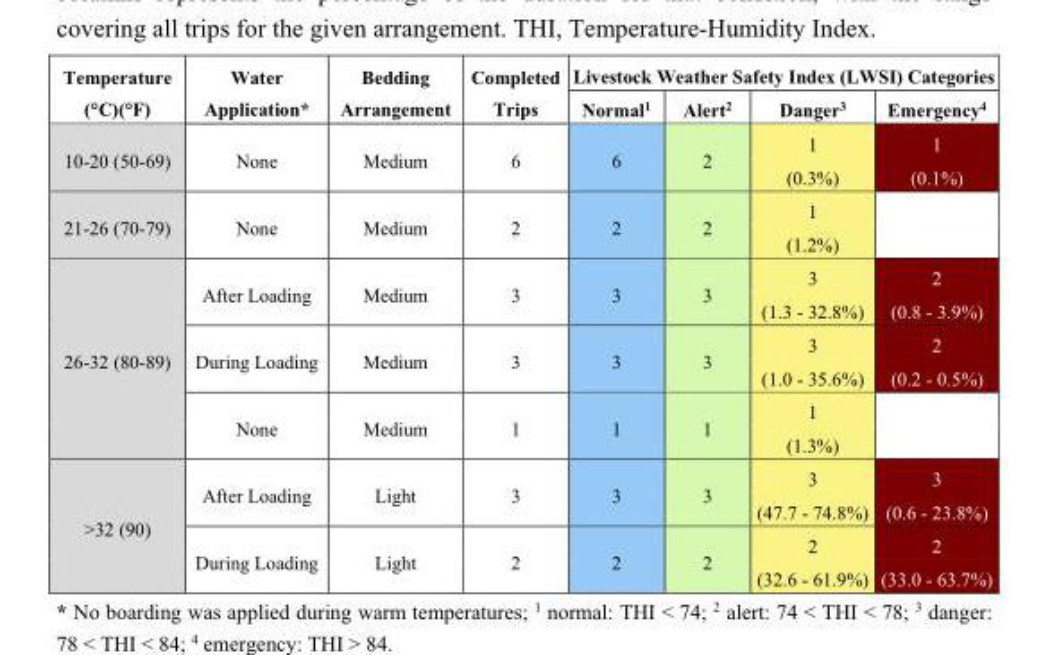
<table><thead><tr><td rowspan="2">Temperature (°C)(°F)</td><td rowspan="2">Water Application*</td><td rowspan="2">Bedding Arrangement</td><td rowspan="2">Completed Trips</td><td colspan="4">Livestock Weather Safety Index (LWSI) Categories</td></tr><tr><td>Normal<sup>1</sup></td><td>Alert<sup>2</sup></td><td>Danger<sup>3</sup></td><td>Emergency<sup>4</sup></td></tr></thead><tbody><tr><td rowspan="2">10-20 (50-69)</td><td rowspan="2">None</td><td rowspan="2">Medium</td><td rowspan="2">6</td><td rowspan="2">6</td><td rowspan="2">2</td><td>1</td><td>1</td></tr><tr><td>(0.3%)</td><td>(0.1%)</td></tr><tr><td rowspan="2">21-26 (70-79)</td><td rowspan="2">None</td><td rowspan="2">Medium</td><td rowspan="2">2</td><td rowspan="2">2</td><td rowspan="2">2</td><td>1</td><td rowspan="2"></td></tr><tr><td>(1.2%)</td></tr><tr><td rowspan="6">26-32 (80-89)</td><td rowspan="2">After Loading</td><td rowspan="2">Medium</td><td rowspan="2">3</td><td rowspan="2">3</td><td rowspan="2">3</td><td>3</td><td>2</td></tr><tr><td>(1.3 - 32.8%)</td><td>(0.8 - 3.9%)</td></tr><tr><td rowspan="2">During Loading</td><td rowspan="2">Medium</td><td rowspan="2">3</td><td rowspan="2">3</td><td rowspan="2">3</td><td>3</td><td>2</td></tr><tr><td>(1.0 - 35.6%)</td><td>(0.2 - 0.5%)</td></tr><tr><td rowspan="2">None</td><td rowspan="2">Medium</td><td rowspan="2">1</td><td rowspan="2">1</td><td rowspan="2">1</td><td>1</td><td rowspan="2"></td></tr><tr><td>(1.3%)</td></tr><tr><td rowspan="4">&gt;32 (90)</td><td rowspan="2">After Loading</td><td rowspan="2">Light</td><td rowspan="2">3</td><td rowspan="2">3</td><td rowspan="2">3</td><td>3</td><td>3</td></tr><tr><td>(47.7 - 74.8%)</td><td>(0.6 - 23.8%)</td></tr><tr><td rowspan="2">During Loading</td><td rowspan="2">Light</td><td rowspan="2">2</td><td rowspan="2">2</td><td rowspan="2">2</td><td>2</td><td>2</td></tr><tr><td>(32.6 - 61.9%)</td><td>(33.0 - 63.7%)</td></tr></tbody></table>